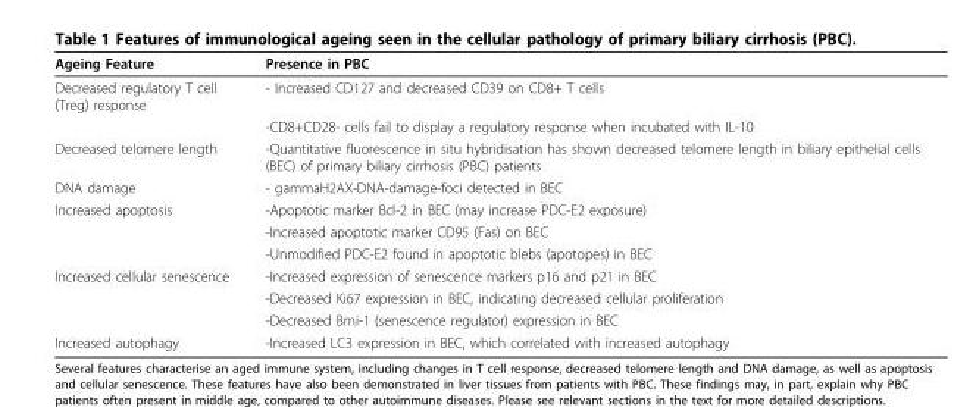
<table><thead><tr><td>Ageing Feature</td><td>Presence in PBC</td></tr></thead><tbody><tr><td rowspan="2">Decreased regulatory T cell (Treg) response</td><td>- Increased CD127 and decreased CD39 on CD8+ T cells</td></tr><tr><td>-CD8+CD28- cells fail to display a regulatory response when incubated with IL-10</td></tr><tr><td>Decreased telomere length</td><td>-Quantitative fluorescence in situ hybridisation has shown decreased telomere length in biliary epithelial cells (BEC) of primary biliary cirrhosis (PBC) patients</td></tr><tr><td>DNA damage</td><td>- gammaH2AX-DNA-damage-foci detected in BEC</td></tr><tr><td rowspan="3">Increased apoptosis</td><td>-Apoptotic marker Bcl-2 in BEC (may increase PDC-E2 exposure)</td></tr><tr><td>-Increased apoptotic marker CD95 (Fas) on BEC</td></tr><tr><td>-Unmodified PDC-E2 found in apoptotic blebs (apotopes) in BEC</td></tr><tr><td rowspan="3">Increased cellular senescence</td><td>-Increased expression of senescence markers p16 and p21 in BEC</td></tr><tr><td>-Decreased Ki67 expression in BEC, indicating decreased cellular proliferation</td></tr><tr><td>-Decreased Bmi-1 (senescence regulator) expression in BEC</td></tr><tr><td>Increased autophagy</td><td>-Increased LC3 expression in BEC, which correlated with increased autophagy</td></tr></tbody></table>